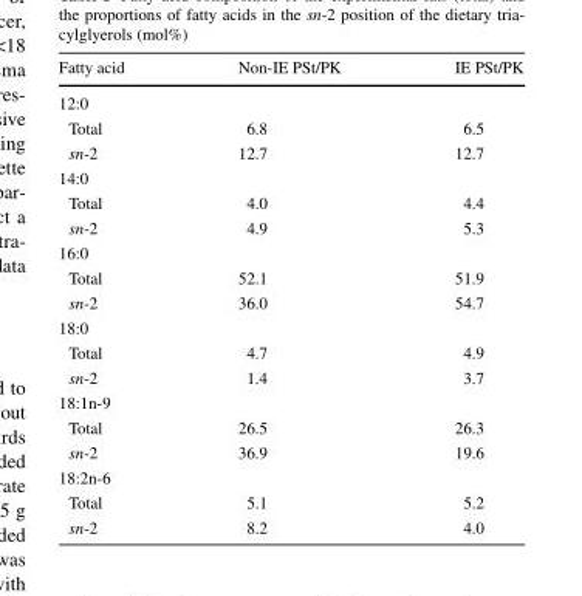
<table><thead><tr><td>Fatty acid</td><td>Non-IE PSt/PK</td><td>IE PSt/PK</td></tr></thead><tbody><tr><td colspan="3">12:0</td></tr><tr><td>Total</td><td>6.8</td><td>6.5</td></tr><tr><td>sn-2</td><td>12.7</td><td>12.7</td></tr><tr><td colspan="3">14:0</td></tr><tr><td>Total</td><td>4.0</td><td>4.4</td></tr><tr><td>sn-2</td><td>4.9</td><td>5.3</td></tr><tr><td colspan="3">16:0</td></tr><tr><td>Total</td><td>52.1</td><td>51.9</td></tr><tr><td>sn-2</td><td>36.0</td><td>54.7</td></tr><tr><td colspan="3">18:0</td></tr><tr><td>Total</td><td>4.7</td><td>4.9</td></tr><tr><td>sn-2</td><td>1.4</td><td>3.7</td></tr><tr><td colspan="3">18:1n-9</td></tr><tr><td>Total</td><td>26.5</td><td>26.3</td></tr><tr><td>sn-2</td><td>36.9</td><td>19.6</td></tr><tr><td colspan="3">18:2n-6</td></tr><tr><td>Total</td><td>5.1</td><td>5.2</td></tr><tr><td>sn-2</td><td>8.2</td><td>4.0</td></tr></tbody></table>